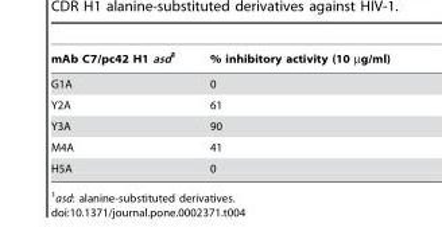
<table><thead><tr><td>mAb C7/pc42 H1 asd1</td><td>% inhibitory activity (10 µg/ml)</td></tr></thead><tbody><tr><td>G1A</td><td>0</td></tr><tr><td>Y2A</td><td>61</td></tr><tr><td>Y3A</td><td>90</td></tr><tr><td>M4A</td><td>41</td></tr><tr><td>H5A</td><td>0</td></tr></tbody></table>